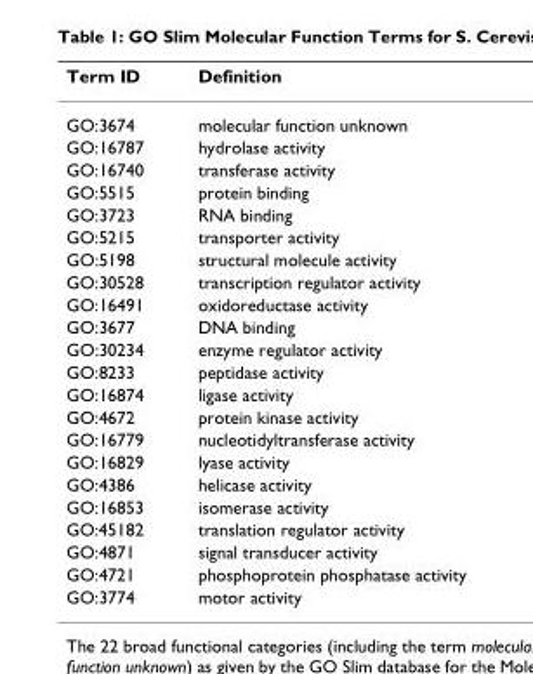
<table><thead><tr><td>Term ID</td><td>Definition</td></tr></thead><tbody><tr><td>GO:3674</td><td>molecular function unknown</td></tr><tr><td>GO:16787</td><td>hydrolase activity</td></tr><tr><td>GO:16740</td><td>transferase activity</td></tr><tr><td>GO:5515</td><td>protein binding</td></tr><tr><td>GO:3723</td><td>RNA binding</td></tr><tr><td>GO:5215</td><td>transporter activity</td></tr><tr><td>GO:5198</td><td>structural molecule activity</td></tr><tr><td>GO:30528</td><td>transcription regulator activity</td></tr><tr><td>GO:16491</td><td>oxidoreductase activity</td></tr><tr><td>GO:3677</td><td>DNA binding</td></tr><tr><td>GO:30234</td><td>enzyme regulator activity</td></tr><tr><td>GO:8233</td><td>peptidase activity</td></tr><tr><td>GO:16874</td><td>ligase activity</td></tr><tr><td>GO:4672</td><td>protein kinase activity</td></tr><tr><td>GO:16779</td><td>nucleotidyltransferase activity</td></tr><tr><td>GO:16829</td><td>lyase activity</td></tr><tr><td>GO:4386</td><td>helicase activity</td></tr><tr><td>GO:16853</td><td>isomerase activity</td></tr><tr><td>GO:45182</td><td>translation regulator activity</td></tr><tr><td>GO:4871</td><td>signal transducer activity</td></tr><tr><td>GO:4721</td><td>phosphoprotein phosphatase activity</td></tr><tr><td>GO:3774</td><td>motor activity</td></tr></tbody></table>